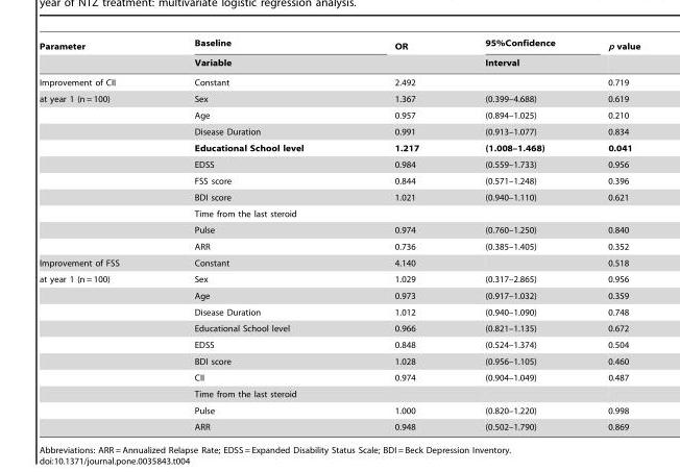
<table><thead><tr><td rowspan="2">Parameter</td><td rowspan="2">Baseline Variable</td><td rowspan="2">OR</td><td rowspan="2">95%Confidence Interval</td><td rowspan="2">p value</td></tr><tr></tr></thead><tbody><tr><td>Improvement of CII</td><td>Constant</td><td>2.492</td><td></td><td>0.719</td></tr><tr><td rowspan="10">at year 1 (n = 100)</td><td>Sex</td><td>1.367</td><td>(0.399–4.688)</td><td>0.619</td></tr><tr><td>Age</td><td>0.957</td><td>(0.894–1.025)</td><td>0.210</td></tr><tr><td>Disease Duration</td><td>0.991</td><td>(0.913–1.077)</td><td>0.834</td></tr><tr><td>Educational School level</td><td>1.217</td><td>(1.008–1.468)</td><td>0.041</td></tr><tr><td>EDSS</td><td>0.984</td><td>(0.559–1.733)</td><td>0.956</td></tr><tr><td>FSS score</td><td>0.844</td><td>(0.571–1.248)</td><td>0.396</td></tr><tr><td>BDI score</td><td>1.021</td><td>(0.940–1.110)</td><td>0.621</td></tr><tr><td>Time from the last steroid</td><td></td><td></td><td></td></tr><tr><td>Pulse</td><td>0.974</td><td>(0.760–1.250)</td><td>0.840</td></tr><tr><td>ARR</td><td>0.736</td><td>(0.385–1.405)</td><td>0.352</td></tr><tr><td>Improvement of FSS</td><td>Constant</td><td>4.140</td><td></td><td>0.518</td></tr><tr><td rowspan="10">at year 1 (n = 100)</td><td>Sex</td><td>1.029</td><td>(0.317–2.865)</td><td>0.956</td></tr><tr><td>Age</td><td>0.973</td><td>(0.917–1.032)</td><td>0.359</td></tr><tr><td>Disease Duration</td><td>1.012</td><td>(0.940–1.090)</td><td>0.748</td></tr><tr><td>Educational School level</td><td>0.966</td><td>(0.821–1.135)</td><td>0.672</td></tr><tr><td>EDSS</td><td>0.848</td><td>(0.524–1.374)</td><td>0.504</td></tr><tr><td>BDI score</td><td>1.028</td><td>(0.956–1.105)</td><td>0.460</td></tr><tr><td>CII</td><td>0.974</td><td>(0.904–1.049)</td><td>0.487</td></tr><tr><td>Time from the last steroid</td><td></td><td></td><td></td></tr><tr><td>Pulse</td><td>1.000</td><td>(0.820–1.220)</td><td>0.998</td></tr><tr><td>ARR</td><td>0.948</td><td>(0.502–1.790)</td><td>0.869</td></tr></tbody></table>